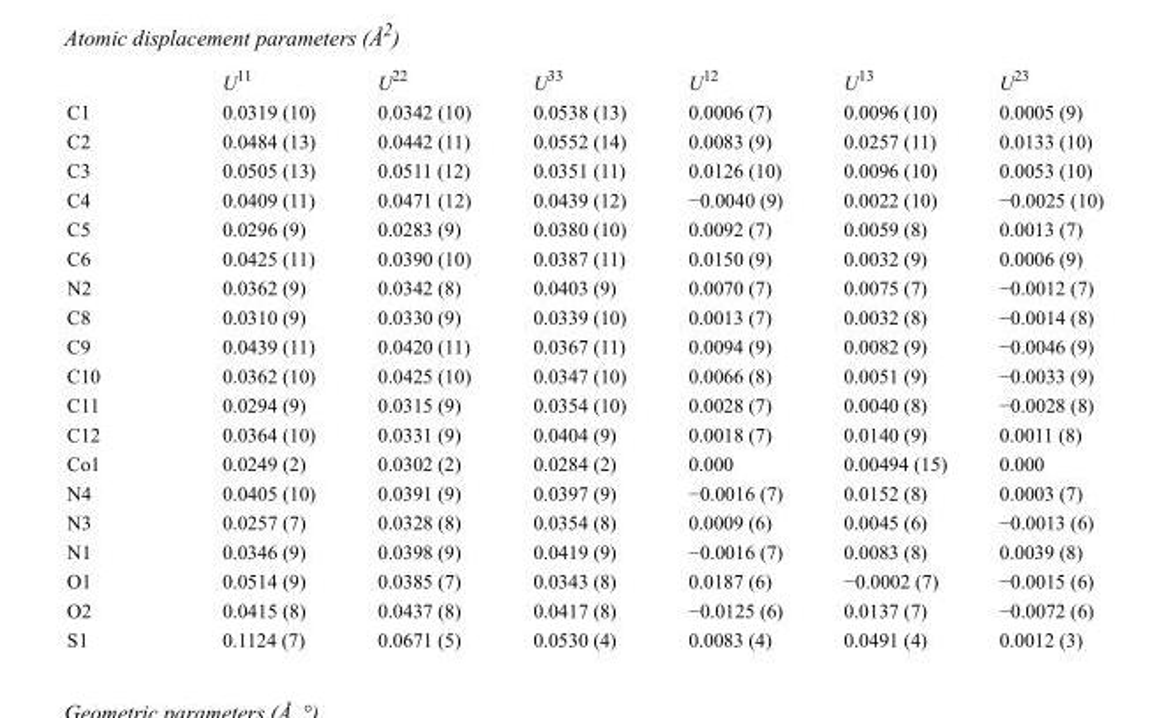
<table><thead><tr><td></td><td>U<sup>11</sup></td><td>U<sup>22</sup></td><td>U<sup>33</sup></td><td>U<sup>12</sup></td><td>U<sup>13</sup></td><td>U<sup>23</sup></td></tr></thead><tbody><tr><td>C1</td><td>0.0319 (10)</td><td>0.0342 (10)</td><td>0.0538 (13)</td><td>0.0006 (7)</td><td>0.0096 (10)</td><td>0.0005 (9)</td></tr><tr><td>C2</td><td>0.0484 (13)</td><td>0.0442 (11)</td><td>0.0552 (14)</td><td>0.0083 (9)</td><td>0.0257 (11)</td><td>0.0133 (10)</td></tr><tr><td>C3</td><td>0.0505 (13)</td><td>0.0511 (12)</td><td>0.0351 (11)</td><td>0.0126 (10)</td><td>0.0096 (10)</td><td>0.0053 (10)</td></tr><tr><td>C4</td><td>0.0409 (11)</td><td>0.0471 (12)</td><td>0.0439 (12)</td><td>−0.0040 (9)</td><td>0.0022 (10)</td><td>−0.0025 (10)</td></tr><tr><td>C5</td><td>0.0296 (9)</td><td>0.0283 (9)</td><td>0.0380 (10)</td><td>0.0092 (7)</td><td>0.0059 (8)</td><td>0.0013 (7)</td></tr><tr><td>C6</td><td>0.0425 (11)</td><td>0.0390 (10)</td><td>0.0387 (11)</td><td>0.0150 (9)</td><td>0.0032 (9)</td><td>0.0006 (9)</td></tr><tr><td>N2</td><td>0.0362 (9)</td><td>0.0342 (8)</td><td>0.0403 (9)</td><td>0.0070 (7)</td><td>0.0075 (7)</td><td>−0.0012 (7)</td></tr><tr><td>C8</td><td>0.0310 (9)</td><td>0.0330 (9)</td><td>0.0339 (10)</td><td>0.0013 (7)</td><td>0.0032 (8)</td><td>−0.0014 (8)</td></tr><tr><td>C9</td><td>0.0439 (11)</td><td>0.0420 (11)</td><td>0.0367 (11)</td><td>0.0094 (9)</td><td>0.0082 (9)</td><td>−0.0046 (9)</td></tr><tr><td>C10</td><td>0.0362 (10)</td><td>0.0425 (10)</td><td>0.0347 (10)</td><td>0.0066 (8)</td><td>0.0051 (9)</td><td>−0.0033 (9)</td></tr><tr><td>C11</td><td>0.0294 (9)</td><td>0.0315 (9)</td><td>0.0354 (10)</td><td>0.0028 (7)</td><td>0.0040 (8)</td><td>−0.0028 (8)</td></tr><tr><td>C12</td><td>0.0364 (10)</td><td>0.0331 (9)</td><td>0.0404 (9)</td><td>0.0018 (7)</td><td>0.0140 (9)</td><td>0.0011 (8)</td></tr><tr><td>Co1</td><td>0.0249 (2)</td><td>0.0302 (2)</td><td>0.0284 (2)</td><td>0.000</td><td>0.00494 (15)</td><td>0.000</td></tr><tr><td>N4</td><td>0.0405 (10)</td><td>0.0391 (9)</td><td>0.0397 (9)</td><td>−0.0016 (7)</td><td>0.0152 (8)</td><td>0.0003 (7)</td></tr><tr><td>N3</td><td>0.0257 (7)</td><td>0.0328 (8)</td><td>0.0354 (8)</td><td>0.0009 (6)</td><td>0.0045 (6)</td><td>−0.0013 (6)</td></tr><tr><td>N1</td><td>0.0346 (9)</td><td>0.0398 (9)</td><td>0.0419 (9)</td><td>−0.0016 (7)</td><td>0.0083 (8)</td><td>0.0039 (8)</td></tr><tr><td>O1</td><td>0.0514 (9)</td><td>0.0385 (7)</td><td>0.0343 (8)</td><td>0.0187 (6)</td><td>−0.0002 (7)</td><td>−0.0015 (6)</td></tr><tr><td>O2</td><td>0.0415 (8)</td><td>0.0437 (8)</td><td>0.0417 (8)</td><td>−0.0125 (6)</td><td>0.0137 (7)</td><td>−0.0072 (6)</td></tr><tr><td>S1</td><td>0.1124 (7)</td><td>0.0671 (5)</td><td>0.0530 (4)</td><td>0.0083 (4)</td><td>0.0491 (4)</td><td>0.0012 (3)</td></tr></tbody></table>